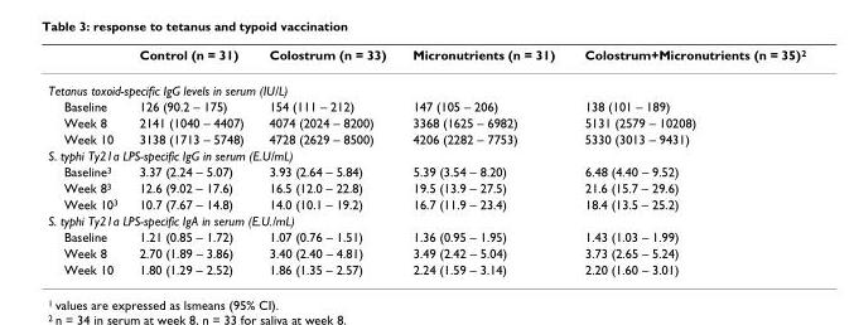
<table><thead><tr><td></td><td>Control (n = 31)</td><td>Colostrum (n = 33)</td><td>Micronutrients (n = 31)</td><td>Colostrum+Micronutrients (n = 35)<sup>2</sup></td></tr></thead><tbody><tr><td colspan="5">Tetanus toxoid-specific IgG levels in serum (IU/L)</td></tr><tr><td>Baseline</td><td>126 (90.2 – 175)</td><td>154 (111 – 212)</td><td>147 (105 – 206)</td><td>138 (101 – 189)</td></tr><tr><td>Week 8</td><td>2141 (1040 – 4407)</td><td>4074 (2024 – 8200)</td><td>3368 (1625 – 6982)</td><td>5131 (2579 – 10208)</td></tr><tr><td>Week 10</td><td>3138 (1713 – 5748)</td><td>4728 (2629 – 8500)</td><td>4206 (2282 – 7753)</td><td>5330 (3013 – 9431)</td></tr><tr><td colspan="5">S. typhi Ty21a LPS-specific IgG in serum (E.U/mL)</td></tr><tr><td>Baseline<sup>3</sup></td><td>3.37 (2.24 – 5.07)</td><td>3.93 (2.64 – 5.84)</td><td>5.39 (3.54 – 8.20)</td><td>6.48 (4.40 – 9.52)</td></tr><tr><td>Week 8<sup>3</sup></td><td>12.6 (9.02 – 17.6)</td><td>16.5 (12.0 – 22.8)</td><td>19.5 (13.9 – 27.5)</td><td>21.6 (15.7 – 29.6)</td></tr><tr><td>Week 10<sup>3</sup></td><td>10.7 (7.67 – 14.8)</td><td>14.0 (10.1 – 19.2)</td><td>16.7 (11.9 – 23.4)</td><td>18.4 (13.5 – 25.2)</td></tr><tr><td colspan="5">S. typhi Ty21a LPS-specific IgA in serum (E.U./mL)</td></tr><tr><td>Baseline</td><td>1.21 (0.85 – 1.72)</td><td>1.07 (0.76 – 1.51)</td><td>1.36 (0.95 – 1.95)</td><td>1.43 (1.03 – 1.99)</td></tr><tr><td>Week 8</td><td>2.70 (1.89 – 3.86)</td><td>3.40 (2.40 – 4.81)</td><td>3.49 (2.42 – 5.04)</td><td>3.73 (2.65 – 5.24)</td></tr><tr><td>Week 10</td><td>1.80 (1.29 – 2.52)</td><td>1.86 (1.35 – 2.57)</td><td>2.24 (1.59 – 3.14)</td><td>2.20 (1.60 – 3.01)</td></tr></tbody></table>